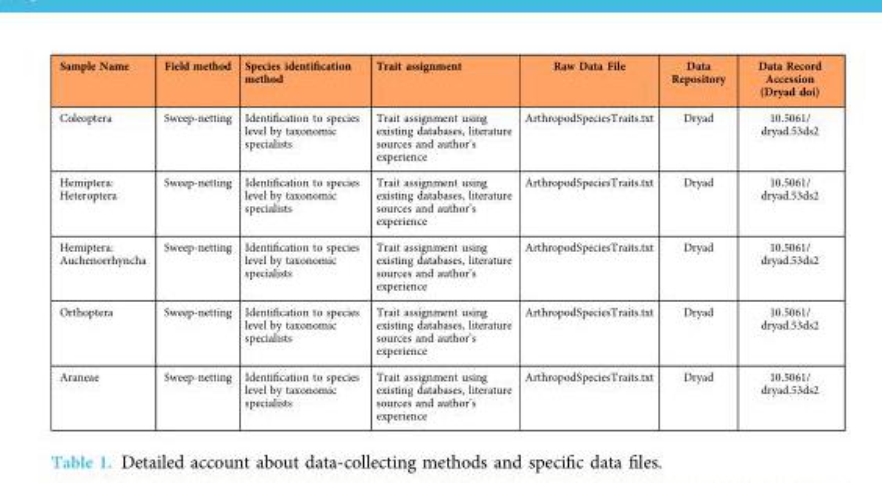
<table><thead><tr><td>Sample Name</td><td>Field method</td><td>Species identification method</td><td>Trait assignment</td><td>Raw Data File</td><td>Data Repository</td><td>Data Record Accession (Dryad doi)</td></tr></thead><tbody><tr><td>Coleoptera</td><td>Sweep-netting</td><td>Identification to species level by taxonomic specialists</td><td>Trait assignment using existing databases, literature sources and author’s experience</td><td>ArthropodSpeciesTraits.txt</td><td>Dryad</td><td>10.5061/ dryad.53ds2</td></tr><tr><td>Hemiptera: Heteroptera</td><td>Sweep-netting</td><td>Identification to species level by taxonomic specialists</td><td>Trait assignment using existing databases, literature sources and author’s experience</td><td>ArthropodSpeciesTraits.txt</td><td>Dryad</td><td>10.5061/ dryad.53ds2</td></tr><tr><td>Hemiptera: Auchenorrhyncha</td><td>Sweep-netting</td><td>Identification to species level by taxonomic specialists</td><td>Trait assignment using existing databases, literature sources and author’s experience</td><td>ArthropodSpeciesTraits.txt</td><td>Dryad</td><td>10.5061/ dryad.53ds2</td></tr><tr><td>Orthoptera</td><td>Sweep-netting</td><td>Identification to species level by taxonomic specialists</td><td>Trait assignment using existing databases, literature sources and author’s experience</td><td>ArthropodSpeciesTraits.txt</td><td>Dryad</td><td>10.5061/ dryad.53ds2</td></tr><tr><td>Araneae</td><td>Sweep-netting</td><td>Identification to species level by taxonomic specialists</td><td>Trait assignment using existing databases, literature sources and author’s experience</td><td>ArthropodSpeciesTraits.txt</td><td>Dryad</td><td>10.5061/ dryad.53ds2</td></tr></tbody></table>